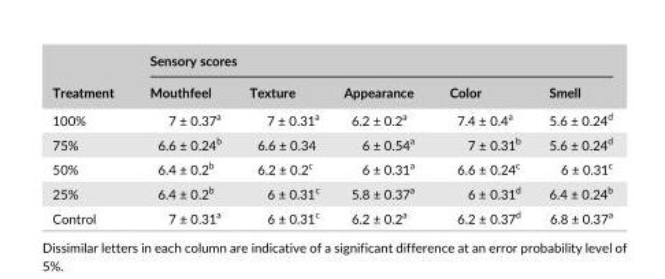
<table><thead><tr><td rowspan="2">Treatment</td><td colspan="5">Sensory scores</td></tr><tr><td>Mouthfeel</td><td>Texture</td><td>Appearance</td><td>Color</td><td>Smell</td></tr></thead><tbody><tr><td>100%</td><td>7 ± 0.37<sup>a</sup></td><td>7 ± 0.31<sup>a</sup></td><td>6.2 ± 0.2<sup>a</sup></td><td>7.4 ± 0.4<sup>a</sup></td><td>5.6 ± 0.24<sup>d</sup></td></tr><tr><td>75%</td><td>6.6 ± 0.24<sup>b</sup></td><td>6.6 ± 0.34</td><td>6 ± 0.54<sup>a</sup></td><td>7 ± 0.31<sup>b</sup></td><td>5.6 ± 0.24<sup>d</sup></td></tr><tr><td>50%</td><td>6.4 ± 0.2<sup>b</sup></td><td>6.2 ± 0.2<sup>c</sup></td><td>6 ± 0.31<sup>a</sup></td><td>6.6 ± 0.24<sup>c</sup></td><td>6 ± 0.31<sup>c</sup></td></tr><tr><td>25%</td><td>6.4 ± 0.2<sup>b</sup></td><td>6 ± 0.31<sup>c</sup></td><td>5.8 ± 0.37<sup>a</sup></td><td>6 ± 0.31<sup>d</sup></td><td>6.4 ± 0.24<sup>b</sup></td></tr><tr><td>Control</td><td>7 ± 0.31<sup>a</sup></td><td>6 ± 0.31<sup>c</sup></td><td>6.2 ± 0.2<sup>a</sup></td><td>6.2 ± 0.37<sup>d</sup></td><td>6.8 ± 0.37<sup>a</sup></td></tr></tbody></table>